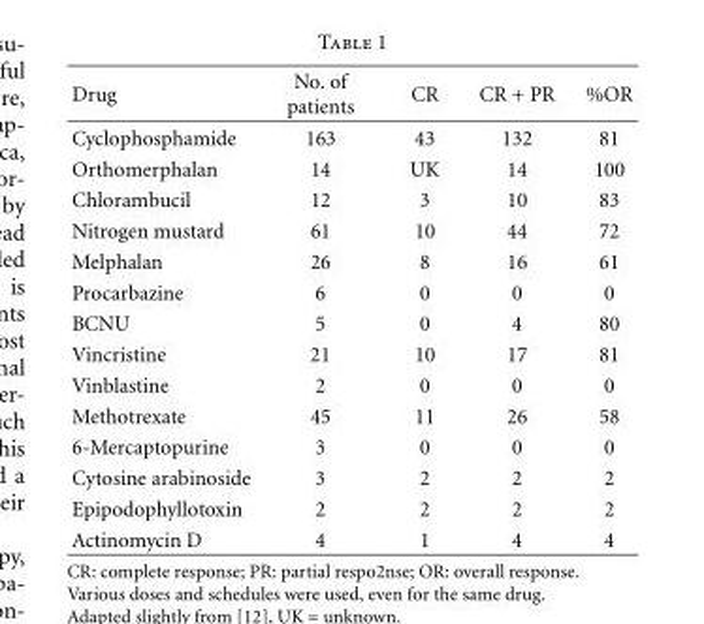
<table><thead><tr><td>Drug</td><td>No. of patients</td><td>CR</td><td>CR + PR</td><td>%OR</td></tr></thead><tbody><tr><td>Cyclophosphamide</td><td>163</td><td>43</td><td>132</td><td>81</td></tr><tr><td>Orthomerphalan</td><td>14</td><td>UK</td><td>14</td><td>100</td></tr><tr><td>Chlorambucil</td><td>12</td><td>3</td><td>10</td><td>83</td></tr><tr><td>Nitrogen mustard</td><td>61</td><td>10</td><td>44</td><td>72</td></tr><tr><td>Melphalan</td><td>26</td><td>8</td><td>16</td><td>61</td></tr><tr><td>Procarbazine</td><td>6</td><td>0</td><td>0</td><td>0</td></tr><tr><td>BCNU</td><td>5</td><td>0</td><td>4</td><td>80</td></tr><tr><td>Vincristine</td><td>21</td><td>10</td><td>17</td><td>81</td></tr><tr><td>Vinblastine</td><td>2</td><td>0</td><td>0</td><td>0</td></tr><tr><td>Methotrexate</td><td>45</td><td>11</td><td>26</td><td>58</td></tr><tr><td>6-Mercaptopurine</td><td>3</td><td>0</td><td>0</td><td>0</td></tr><tr><td>Cytosine arabinoside</td><td>3</td><td>2</td><td>2</td><td>2</td></tr><tr><td>Epipodophyllotoxin</td><td>2</td><td>2</td><td>2</td><td>2</td></tr><tr><td>Actinomycin D</td><td>4</td><td>1</td><td>4</td><td>4</td></tr></tbody></table>